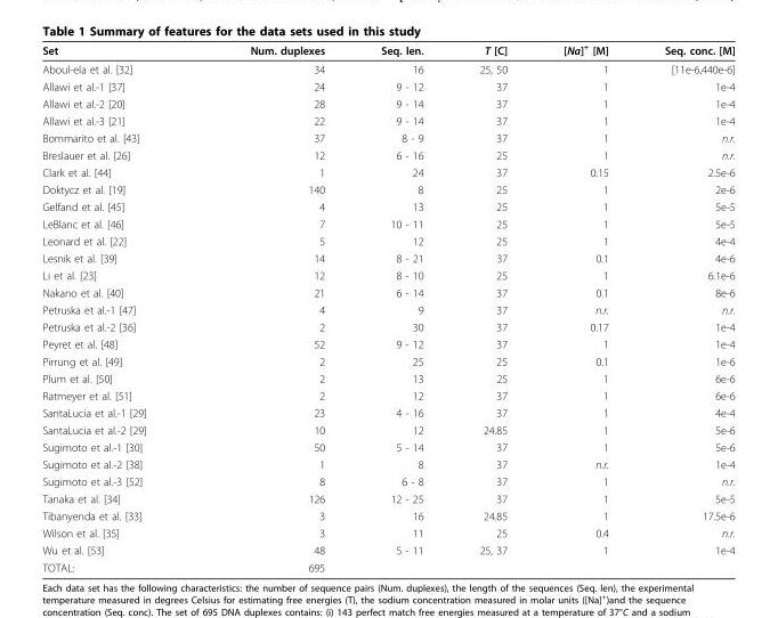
<table><thead><tr><td>Set</td><td>Num. duplexes</td><td>Seq. len.</td><td>T [C]</td><td>[Na]<sup>+</sup> [M]</td><td>Seq. conc. [M]</td></tr></thead><tbody><tr><td>Aboul-ela et al. [32]</td><td>34</td><td>16</td><td>25, 50</td><td>1</td><td>[11e-6,440e-6]</td></tr><tr><td>Allawi et al.-1 [37]</td><td>24</td><td>9 - 12</td><td>37</td><td>1</td><td>1e-4</td></tr><tr><td>Allawi et al.-2 [20]</td><td>28</td><td>9 - 14</td><td>37</td><td>1</td><td>1e-4</td></tr><tr><td>Allawi et al.-3 [21]</td><td>22</td><td>9 - 14</td><td>37</td><td>1</td><td>1e-4</td></tr><tr><td>Bommarito et al. [43]</td><td>37</td><td>8 - 9</td><td>37</td><td>1</td><td>n.r.</td></tr><tr><td>Breslauer et al. [26]</td><td>12</td><td>6 - 16</td><td>25</td><td>1</td><td>n.r.</td></tr><tr><td>Clark et al. [44]</td><td>1</td><td>24</td><td>37</td><td>0.15</td><td>2.5e-6</td></tr><tr><td>Doktycz et al. [19]</td><td>140</td><td>8</td><td>25</td><td>1</td><td>2e-6</td></tr><tr><td>Gelfand et al. [45]</td><td>4</td><td>13</td><td>25</td><td>1</td><td>5e-5</td></tr><tr><td>LeBlanc et al. [46]</td><td>7</td><td>10 - 11</td><td>25</td><td>1</td><td>5e-5</td></tr><tr><td>Leonard et al. [22]</td><td>5</td><td>12</td><td>25</td><td>1</td><td>4e-4</td></tr><tr><td>Lesnik et al. [39]</td><td>14</td><td>8 - 21</td><td>37</td><td>0.1</td><td>4e-6</td></tr><tr><td>Li et al. [23]</td><td>12</td><td>8 - 10</td><td>25</td><td>1</td><td>6.1e-6</td></tr><tr><td>Nakano et al. [40]</td><td>21</td><td>6 - 14</td><td>37</td><td>0.1</td><td>8e-6</td></tr><tr><td>Petruska et al.-1 [47]</td><td>4</td><td>9</td><td>37</td><td>n.r.</td><td>n.r.</td></tr><tr><td>Petruska et al.-2 [36]</td><td>2</td><td>30</td><td>37</td><td>0.17</td><td>1e-4</td></tr><tr><td>Peyret et al. [48]</td><td>52</td><td>9 - 12</td><td>37</td><td>1</td><td>1e-4</td></tr><tr><td>Pirrung et al. [49]</td><td>2</td><td>25</td><td>25</td><td>0.1</td><td>1e-6</td></tr><tr><td>Plum et al. [50]</td><td>2</td><td>13</td><td>25</td><td>1</td><td>6e-6</td></tr><tr><td>Ratmeyer et al. [51]</td><td>2</td><td>12</td><td>37</td><td>1</td><td>6e-6</td></tr><tr><td>SantaLucia et al.-1 [29]</td><td>23</td><td>4 - 16</td><td>37</td><td>1</td><td>4e-4</td></tr><tr><td>SantaLucia et al.-2 [29]</td><td>10</td><td>12</td><td>24.85</td><td>1</td><td>5e-6</td></tr><tr><td>Sugimoto et al.-1 [30]</td><td>50</td><td>5 - 14</td><td>37</td><td>1</td><td>5e-6</td></tr><tr><td>Sugimoto et al.-2 [38]</td><td>1</td><td>8</td><td>37</td><td>n.r.</td><td>1e-4</td></tr><tr><td>Sugimoto et al.-3 [52]</td><td>8</td><td>6 - 8</td><td>37</td><td>1</td><td>n.r.</td></tr><tr><td>Tanaka et al. [34]</td><td>126</td><td>12 - 25</td><td>37</td><td>1</td><td>5e-5</td></tr><tr><td>Tibanyenda et al. [33]</td><td>3</td><td>16</td><td>24.85</td><td>1</td><td>17.5e-6</td></tr><tr><td>Wilson et al. [35]</td><td>3</td><td>11</td><td>25</td><td>0.4</td><td>n.r.</td></tr><tr><td>Wu et al. [53]</td><td>48</td><td>5 - 11</td><td>25, 37</td><td>1</td><td>1e-4</td></tr><tr><td>TOTAL:</td><td>695</td><td></td><td></td><td></td><td></td></tr></tbody></table>